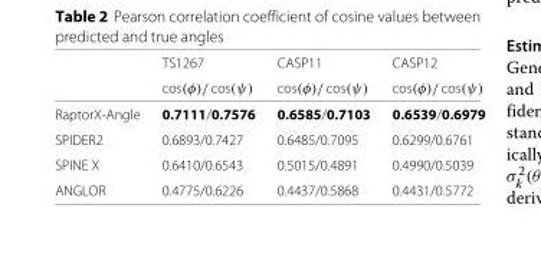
<table><thead><tr><td rowspan="2"></td><td rowspan="2">TS1267 cos(φ)/ cos(ψ)</td><td rowspan="2">CASP11 cos(φ)/ cos(ψ)</td><td rowspan="2">CASP12 cos(φ)/ cos(ψ)</td></tr><tr></tr></thead><tbody><tr><td>RaptorX-Angle</td><td>0.7111/0.7576</td><td>0.6585/0.7103</td><td>0.6539/0.6979</td></tr><tr><td>SPIDER2</td><td>0.6893/0.7427</td><td>0.6485/0.7095</td><td>0.6299/0.6761</td></tr><tr><td>SPINE X</td><td>0.6410/0.6543</td><td>0.5015/0.4891</td><td>0.4990/0.5039</td></tr><tr><td>ANGLOR</td><td>0.4775/0.6226</td><td>0.4437/0.5868</td><td>0.4431/0.5772</td></tr></tbody></table>